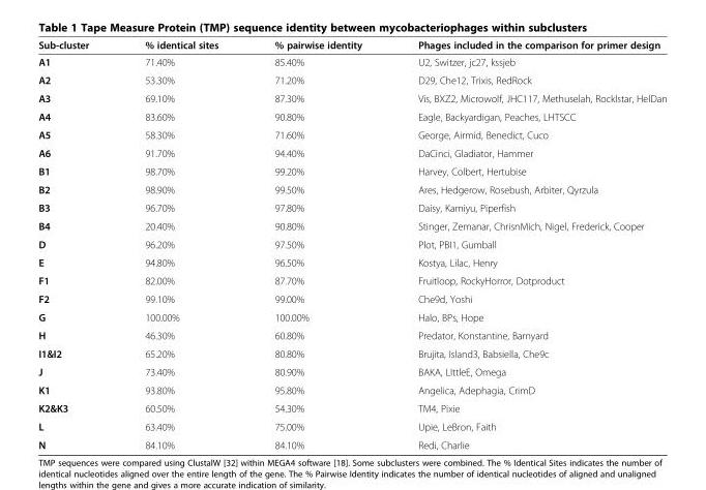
<table><thead><tr><td>Sub-cluster</td><td>% identical sites</td><td>% pairwise identity</td><td>Phages included in the comparison for primer design</td></tr></thead><tbody><tr><td>A1</td><td>71.40%</td><td>85.40%</td><td>U2, Switzer, jc27, kssjeb</td></tr><tr><td>A2</td><td>53.30%</td><td>71.20%</td><td>D29, Che12, Trixis, RedRock</td></tr><tr><td>A3</td><td>69.10%</td><td>87.30%</td><td>Vis, BXZ2, Microwolf, JHC117, Methuselah, Rocklstar, HelDan</td></tr><tr><td>A4</td><td>83.60%</td><td>90.80%</td><td>Eagle, Backyardigan, Peaches, LHTSCC</td></tr><tr><td>A5</td><td>58.30%</td><td>71.60%</td><td>George, Airmid, Benedict, Cuco</td></tr><tr><td>A6</td><td>91.70%</td><td>94.40%</td><td>DaCinci, Gladiator, Hammer</td></tr><tr><td>B1</td><td>98.70%</td><td>99.20%</td><td>Harvey, Colbert, Hertubise</td></tr><tr><td>B2</td><td>98.90%</td><td>99.50%</td><td>Ares, Hedgerow, Rosebush, Arbiter, Qyrzula</td></tr><tr><td>B3</td><td>96.70%</td><td>97.80%</td><td>Daisy, Kamiyu, Piperfish</td></tr><tr><td>B4</td><td>20.40%</td><td>90.80%</td><td>Stinger, Zemanar, ChrisnMich, Nigel, Frederick, Cooper</td></tr><tr><td>D</td><td>96.20%</td><td>97.50%</td><td>Plot, PBI1, Gumball</td></tr><tr><td>E</td><td>94.80%</td><td>96.50%</td><td>Kostya, Lilac, Henry</td></tr><tr><td>F1</td><td>82.00%</td><td>87.70%</td><td>Fruitloop, RockyHorror, Dotproduct</td></tr><tr><td>F2</td><td>99.10%</td><td>99.00%</td><td>Che9d, Yoshi</td></tr><tr><td>G</td><td>100.00%</td><td>100.00%</td><td>Halo, BPs, Hope</td></tr><tr><td>H</td><td>46.30%</td><td>60.80%</td><td>Predator, Konstantine, Barnyard</td></tr><tr><td>I1&amp;I2</td><td>65.20%</td><td>80.80%</td><td>Brujita, Island3, Babsiella, Che9c</td></tr><tr><td>J</td><td>73.40%</td><td>80.90%</td><td>BAKA, LIttleE, Omega</td></tr><tr><td>K1</td><td>93.80%</td><td>95.80%</td><td>Angelica, Adephagia, CrimD</td></tr><tr><td>K2&amp;K3</td><td>60.50%</td><td>54.30%</td><td>TM4, Pixie</td></tr><tr><td>L</td><td>63.40%</td><td>75.00%</td><td>Upie, LeBron, Faith</td></tr><tr><td>N</td><td>84.10%</td><td>84.10%</td><td>Redi, Charlie</td></tr></tbody></table>